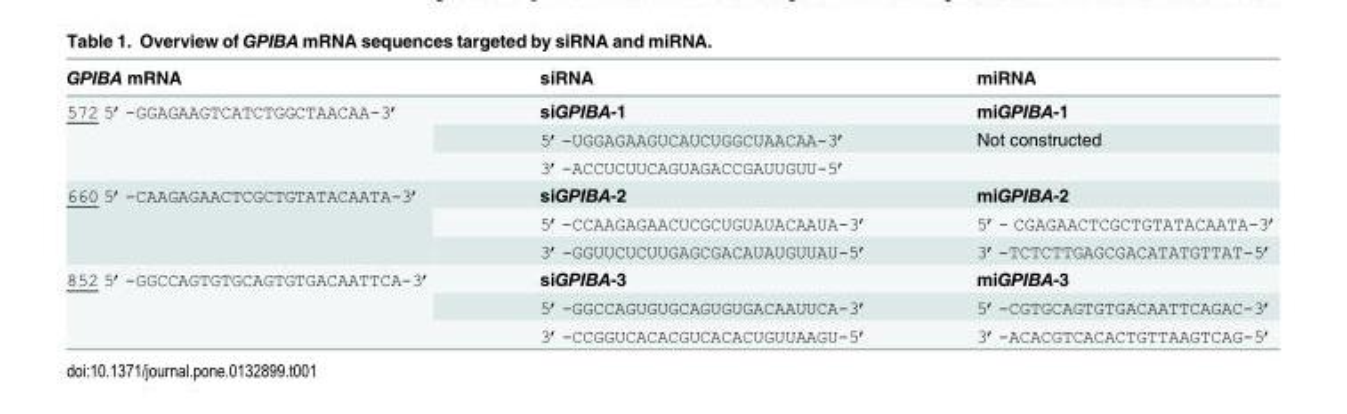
<table><thead><tr><td>GPIBA mRNA</td><td>siRNA</td><td>miRNA</td></tr></thead><tbody><tr><td rowspan="3">572 5’-GGAGAAGTCATCTGGCTAACAA-3’</td><td>siGPIBA-1</td><td>miGPIBA-1</td></tr><tr><td>5’-UGGAGAAGUCAUCUGGCUAACAA-3’</td><td>Not constructed</td></tr><tr><td>3’-ACCUCUUCAGUAGACCGAUUGUU-5’</td><td></td></tr><tr><td rowspan="3">660 5’-CAAGAGAACTCGCTGTATACAATA-3’</td><td>siGPIBA-2</td><td>miGPIBA-2</td></tr><tr><td>5’-CCAAGAGAACUCGCUGUAUACAAUA-3’</td><td>5’- CGAGAACTCGCTGTATACAATA-3’</td></tr><tr><td>3’-GGUUCUCUUGAGCGACAUAUGUUAU-5’</td><td>3’-TCTCTTGAGCGACATATGTTAT-5’</td></tr><tr><td rowspan="3">852 5’-GGCCAGTGTGCAGTGTGACAATTCA-3’</td><td>siGPIBA-3</td><td>miGPIBA-3</td></tr><tr><td>5’-GGCCAGUGUGCAGUGUGACAAUUCA-3’</td><td>5’-CGTGCAGTGTGACAATTCAGAC-3’</td></tr><tr><td>3’-CCGGUCACACGUCACACUGUUAAGU-5’</td><td>3’-ACACGTCACACTGTTAAGTCAG-5’</td></tr></tbody></table>